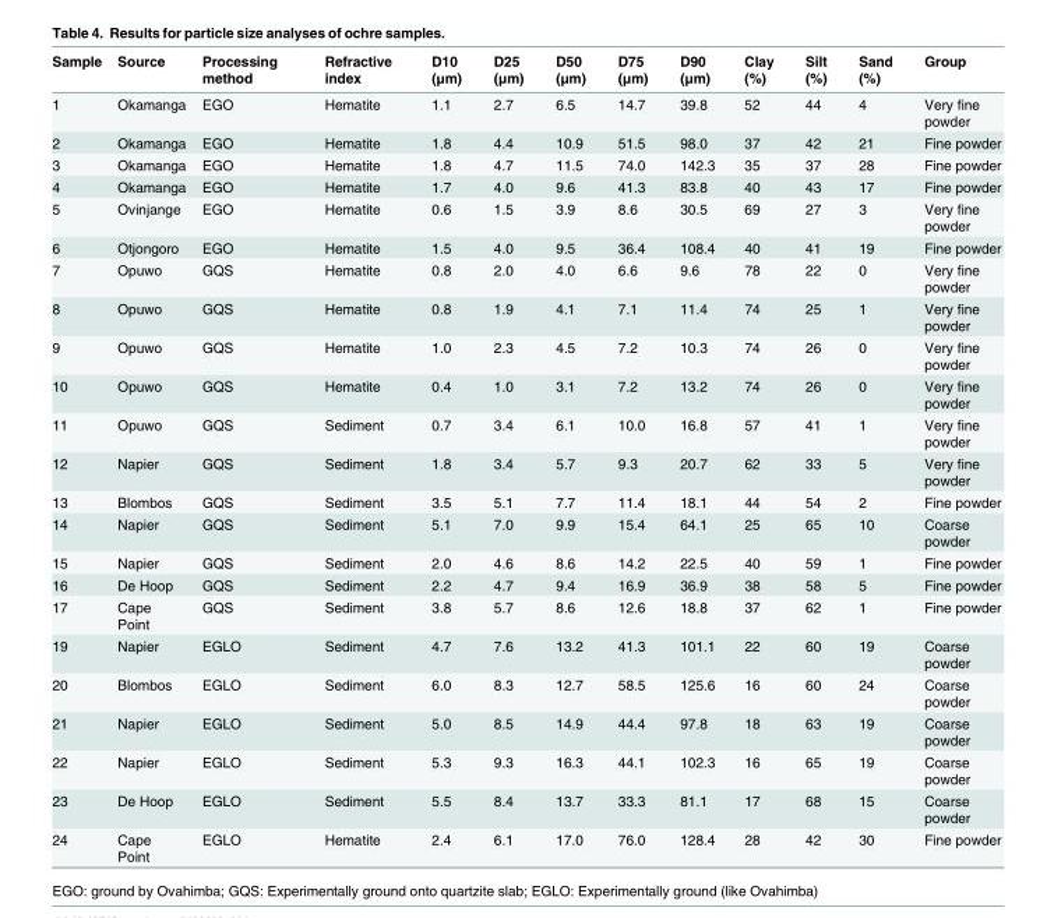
<table><thead><tr><td>Sample</td><td>Source</td><td>Processing method</td><td>Refractive index</td><td>D10 (μm)</td><td>D25 (μm)</td><td>D50 (μm)</td><td>D75 (μm)</td><td>D90 (μm)</td><td>Clay (%)</td><td>Silt (%)</td><td>Sand (%)</td><td>Group</td></tr></thead><tbody><tr><td>1</td><td>Okamanga</td><td>EGO</td><td>Hematite</td><td>1.1</td><td>2.7</td><td>6.5</td><td>14.7</td><td>39.8</td><td>52</td><td>44</td><td>4</td><td>Very fine powder</td></tr><tr><td>2</td><td>Okamanga</td><td>EGO</td><td>Hematite</td><td>1.8</td><td>4.4</td><td>10.9</td><td>51.5</td><td>98.0</td><td>37</td><td>42</td><td>21</td><td>Fine powder</td></tr><tr><td>3</td><td>Okamanga</td><td>EGO</td><td>Hematite</td><td>1.8</td><td>4.7</td><td>11.5</td><td>74.0</td><td>142.3</td><td>35</td><td>37</td><td>28</td><td>Fine powder</td></tr><tr><td>4</td><td>Okamanga</td><td>EGO</td><td>Hematite</td><td>1.7</td><td>4.0</td><td>9.6</td><td>41.3</td><td>83.8</td><td>40</td><td>43</td><td>17</td><td>Fine powder</td></tr><tr><td>5</td><td>Ovinjange</td><td>EGO</td><td>Hematite</td><td>0.6</td><td>1.5</td><td>3.9</td><td>8.6</td><td>30.5</td><td>69</td><td>27</td><td>3</td><td>Very fine powder</td></tr><tr><td>6</td><td>Otjongoro</td><td>EGO</td><td>Hematite</td><td>1.5</td><td>4.0</td><td>9.5</td><td>36.4</td><td>108.4</td><td>40</td><td>41</td><td>19</td><td>Fine powder</td></tr><tr><td>7</td><td>Opuwo</td><td>GQS</td><td>Hematite</td><td>0.8</td><td>2.0</td><td>4.0</td><td>6.6</td><td>9.6</td><td>78</td><td>22</td><td>0</td><td>Very fine powder</td></tr><tr><td>8</td><td>Opuwo</td><td>GQS</td><td>Hematite</td><td>0.8</td><td>1.9</td><td>4.1</td><td>7.1</td><td>11.4</td><td>74</td><td>25</td><td>1</td><td>Very fine powder</td></tr><tr><td>9</td><td>Opuwo</td><td>GQS</td><td>Hematite</td><td>1.0</td><td>2.3</td><td>4.5</td><td>7.2</td><td>10.3</td><td>74</td><td>26</td><td>0</td><td>Very fine powder</td></tr><tr><td>10</td><td>Opuwo</td><td>GQS</td><td>Hematite</td><td>0.4</td><td>1.0</td><td>3.1</td><td>7.2</td><td>13.2</td><td>74</td><td>26</td><td>0</td><td>Very fine powder</td></tr><tr><td>11</td><td>Opuwo</td><td>GQS</td><td>Sediment</td><td>0.7</td><td>3.4</td><td>6.1</td><td>10.0</td><td>16.8</td><td>57</td><td>41</td><td>1</td><td>Very fine powder</td></tr><tr><td>12</td><td>Napier</td><td>GQS</td><td>Sediment</td><td>1.8</td><td>3.4</td><td>5.7</td><td>9.3</td><td>20.7</td><td>62</td><td>33</td><td>5</td><td>Very fine powder</td></tr><tr><td>13</td><td>Blombos</td><td>GQS</td><td>Sediment</td><td>3.5</td><td>5.1</td><td>7.7</td><td>11.4</td><td>18.1</td><td>44</td><td>54</td><td>2</td><td>Fine powder</td></tr><tr><td>14</td><td>Napier</td><td>GQS</td><td>Sediment</td><td>5.1</td><td>7.0</td><td>9.9</td><td>15.4</td><td>64.1</td><td>25</td><td>65</td><td>10</td><td>Coarse powder</td></tr><tr><td>15</td><td>Napier</td><td>GQS</td><td>Sediment</td><td>2.0</td><td>4.6</td><td>8.6</td><td>14.2</td><td>22.5</td><td>40</td><td>59</td><td>1</td><td>Fine powder</td></tr><tr><td>16</td><td>De Hoop</td><td>GQS</td><td>Sediment</td><td>2.2</td><td>4.7</td><td>9.4</td><td>16.9</td><td>36.9</td><td>38</td><td>58</td><td>5</td><td>Fine powder</td></tr><tr><td>17</td><td>Cape Point</td><td>GQS</td><td>Sediment</td><td>3.8</td><td>5.7</td><td>8.6</td><td>12.6</td><td>18.8</td><td>37</td><td>62</td><td>1</td><td>Fine powder</td></tr><tr><td>19</td><td>Napier</td><td>EGLO</td><td>Sediment</td><td>4.7</td><td>7.6</td><td>13.2</td><td>41.3</td><td>101.1</td><td>22</td><td>60</td><td>19</td><td>Coarse powder</td></tr><tr><td>20</td><td>Blombos</td><td>EGLO</td><td>Sediment</td><td>6.0</td><td>8.3</td><td>12.7</td><td>58.5</td><td>125.6</td><td>16</td><td>60</td><td>24</td><td>Coarse powder</td></tr><tr><td>21</td><td>Napier</td><td>EGLO</td><td>Sediment</td><td>5.0</td><td>8.5</td><td>14.9</td><td>44.4</td><td>97.8</td><td>18</td><td>63</td><td>19</td><td>Coarse powder</td></tr><tr><td>22</td><td>Napier</td><td>EGLO</td><td>Sediment</td><td>5.3</td><td>9.3</td><td>16.3</td><td>44.1</td><td>102.3</td><td>16</td><td>65</td><td>19</td><td>Coarse powder</td></tr><tr><td>23</td><td>De Hoop</td><td>EGLO</td><td>Sediment</td><td>5.5</td><td>8.4</td><td>13.7</td><td>33.3</td><td>81.1</td><td>17</td><td>68</td><td>15</td><td>Coarse powder</td></tr><tr><td>24</td><td>Cape Point</td><td>EGLO</td><td>Hematite</td><td>2.4</td><td>6.1</td><td>17.0</td><td>76.0</td><td>128.4</td><td>28</td><td>42</td><td>30</td><td>Fine powder</td></tr></tbody></table>